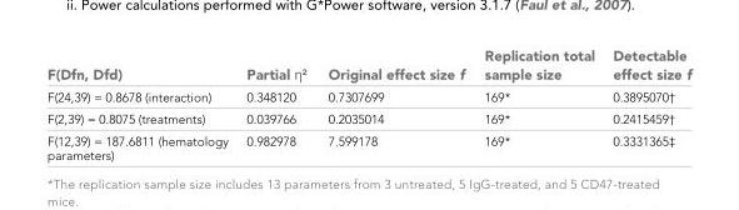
<table><thead><tr><td>F(Dfn, Dfd)</td><td>Partial η<sup>2</sup></td><td>Original effect size f</td><td>Replication total sample size</td><td>Detectable effect size f</td></tr></thead><tbody><tr><td>F(24,39) = 0.8678 (interaction)</td><td>0.348120</td><td>0.7307699</td><td>169*</td><td>0.3895070†</td></tr><tr><td>F(2,39) = 0.8075 (treatments)</td><td>0.039766</td><td>0.2035014</td><td>169*</td><td>0.2415459†</td></tr><tr><td>F(12,39) = 187.6811 (hematology parameters)</td><td>0.982978</td><td>7.599178</td><td>169*</td><td>0.3331365‡</td></tr></tbody></table>